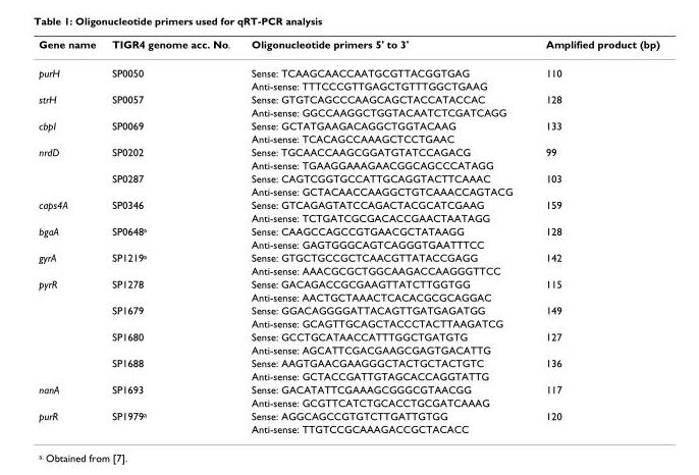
<table><thead><tr><td>Gene name</td><td>TIGR4 genome acc. No.</td><td>Oligonucleotide primers 5&#x27; to 3&#x27;</td><td>Amplified product (bp)</td></tr></thead><tbody><tr><td rowspan="2">purH</td><td>SP0050</td><td>Sense: TCAAGCAACCAATGCGTTACGGTGAG</td><td>110</td></tr><tr><td></td><td>Anti-sense: TTTCCCGTTGAGCTGTTTGGCTGAAG</td><td></td></tr><tr><td rowspan="2">strH</td><td>SP0057</td><td>Sense: GTGTCAGCCCAAGCAGCTACCATACCAC</td><td>128</td></tr><tr><td></td><td>Anti-sense: GGCCAAGGCTGGTACAATCTCGATCAGG</td><td></td></tr><tr><td rowspan="2">cbpI</td><td>SP0069</td><td>Sense: GCTATGAAGACAGGCTGGTACAAG</td><td>133</td></tr><tr><td></td><td>Anti-sense: TCACAGCCAAAGCTCCTGAAC</td><td></td></tr><tr><td rowspan="4">nrdD</td><td>SP0202</td><td>Sense: TGCAACCAAGCGGATGTATCCAGACG</td><td>99</td></tr><tr><td></td><td>Anti-sense: TGAAGGAAAGAACGGCAGCCCATAGG</td><td></td></tr><tr><td>SP0287</td><td>Sense: CAGTCGGTGCCATTGCAGGTACTTCAAAC</td><td>103</td></tr><tr><td></td><td>Anti-sense: GCTACAACCAAGGCTGTCAAACCAGTACG</td><td></td></tr><tr><td rowspan="2">caps4A</td><td>SP0346</td><td>Sense: GTCAGAGTATCCAGACTACGCATCGAAG</td><td>159</td></tr><tr><td></td><td>Anti-sense: TCTGATCGCGACACCGAACTAATAGG</td><td></td></tr><tr><td rowspan="2">bgaA</td><td>SP0648<sup>a</sup></td><td>Sense: CAAGCCAGCCGTGAACGCTATAAGG</td><td>128</td></tr><tr><td></td><td>Anti-sense: GAGTGGGCAGTCAGGGTGAATTTCC</td><td></td></tr><tr><td rowspan="2">gyrA</td><td>SP1219<sup>a</sup></td><td>Sense: GTGCTGCCGCTCAACGTTATACCGAGG</td><td>142</td></tr><tr><td></td><td>Anti-sense: AAACGCGCTGGCAAGACCAAGGGTTCC</td><td></td></tr><tr><td rowspan="8">pyrR</td><td>SP1278</td><td>Sense: GACAGACCGCGAAGTTATCTTGGTGG</td><td>115</td></tr><tr><td></td><td>Anti-sense: AACTGCTAAACTCACACGCGCAGGAC</td><td></td></tr><tr><td>SP1679</td><td>Sense: GGACAGGGGATTACAGTTGATGAGATGG</td><td>149</td></tr><tr><td></td><td>Anti-sense: GCAGTTGCAGCTACCCTACTTAAGATCG</td><td></td></tr><tr><td>SP1680</td><td>Sense: GCCTGCATAACCATTTGGCTGATGTG</td><td>127</td></tr><tr><td></td><td>Anti-sense: AGCATTCGACGAAGCGAGTGACATTG</td><td></td></tr><tr><td>SP1688</td><td>Sense: AAGTGAACGAAGGGCTACTGCTACTGTC</td><td>136</td></tr><tr><td></td><td>Anti-sense: GCTACCGATTGTAGCACCAGGTATTG</td><td></td></tr><tr><td rowspan="2">nanA</td><td>SP1693</td><td>Sense: GACATATTCGAAAGCGGGCGTAACGG</td><td>117</td></tr><tr><td></td><td>Anti-sense: GCGTTCATCTGCACCTGCGATCAAAG</td><td></td></tr><tr><td rowspan="2">purR</td><td>SP1979<sup>a</sup></td><td>Sense: AGGCAGCCGTGTCTTGATTGTGG</td><td>120</td></tr><tr><td></td><td>Anti-sense: TTGTCCGCAAAGACCGCTACACC</td><td></td></tr></tbody></table>